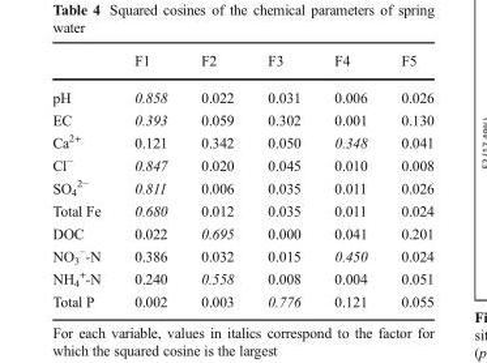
<table><thead><tr><td></td><td>F1</td><td>F2</td><td>F3</td><td>F4</td><td>F5</td></tr></thead><tbody><tr><td>pH</td><td>0.858</td><td>0.022</td><td>0.031</td><td>0.006</td><td>0.026</td></tr><tr><td>EC</td><td>0.393</td><td>0.059</td><td>0.302</td><td>0.001</td><td>0.130</td></tr><tr><td>Ca<sup>2+</sup></td><td>0.121</td><td>0.342</td><td>0.050</td><td>0.348</td><td>0.041</td></tr><tr><td>Cl<sup>−</sup></td><td>0.847</td><td>0.020</td><td>0.045</td><td>0.010</td><td>0.008</td></tr><tr><td>SO<sub>4</sub> <sup>2−</sup></td><td>0.811</td><td>0.006</td><td>0.035</td><td>0.011</td><td>0.026</td></tr><tr><td>Total Fe</td><td>0.680</td><td>0.012</td><td>0.035</td><td>0.011</td><td>0.024</td></tr><tr><td>DOC</td><td>0.022</td><td>0.695</td><td>0.000</td><td>0.041</td><td>0.201</td></tr><tr><td>NO<sub>3</sub> <sup>−</sup>-N</td><td>0.386</td><td>0.032</td><td>0.015</td><td>0.450</td><td>0.024</td></tr><tr><td>NH<sub>4</sub> <sup>+</sup>-N</td><td>0.240</td><td>0.558</td><td>0.008</td><td>0.004</td><td>0.051</td></tr><tr><td>Total P</td><td>0.002</td><td>0.003</td><td>0.776</td><td>0.121</td><td>0.055</td></tr></tbody></table>